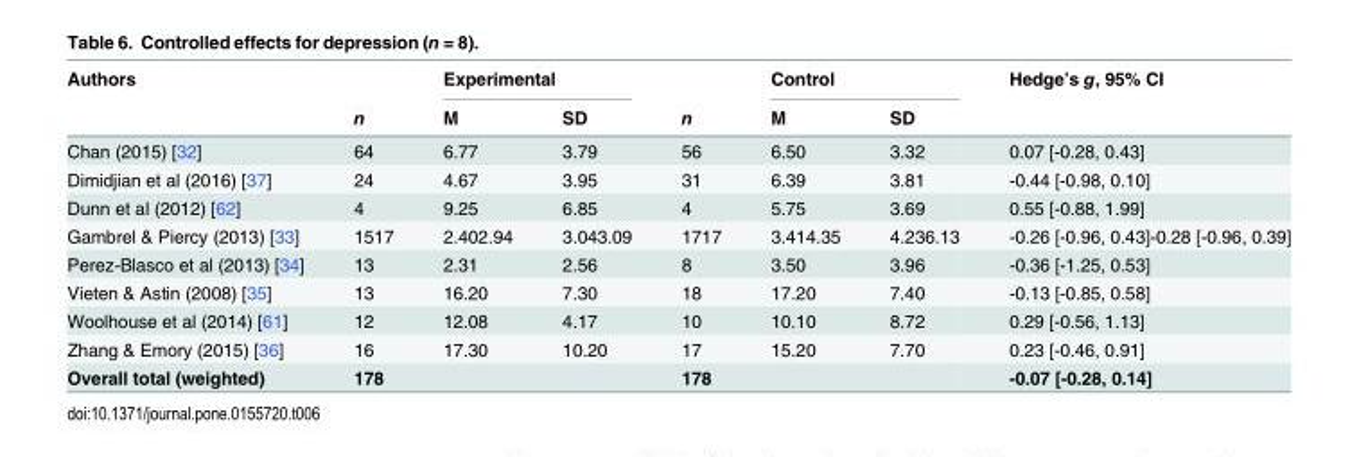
<table><thead><tr><td rowspan="2">Authors</td><td rowspan="2">n</td><td colspan="2">Experimental</td><td rowspan="2">n</td><td colspan="2">Control</td><td rowspan="2">Hedge’s g, 95% CI</td></tr><tr><td>M</td><td>SD</td><td>M</td><td>SD</td></tr></thead><tbody><tr><td>Chan (2015) [32]</td><td>64</td><td>6.77</td><td>3.79</td><td>56</td><td>6.50</td><td>3.32</td><td>0.07 [-0.28, 0.43]</td></tr><tr><td>Dimidjian et al (2016) [37]</td><td>24</td><td>4.67</td><td>3.95</td><td>31</td><td>6.39</td><td>3.81</td><td>-0.44 [-0.98, 0.10]</td></tr><tr><td>Dunn et al (2012) [62]</td><td>4</td><td>9.25</td><td>6.85</td><td>4</td><td>5.75</td><td>3.69</td><td>0.55 [-0.88, 1.99]</td></tr><tr><td>Gambrel &amp; Piercy (2013) [33]</td><td>1517</td><td>2.402.94</td><td>3.043.09</td><td>1717</td><td>3.414.35</td><td>4.236.13</td><td>-0.26 [-0.96, 0.43]-0.28 [-0.96, 0.39]</td></tr><tr><td>Perez-Blasco et al (2013) [34]</td><td>13</td><td>2.31</td><td>2.56</td><td>8</td><td>3.50</td><td>3.96</td><td>-0.36 [-1.25, 0.53]</td></tr><tr><td>Vieten &amp; Astin (2008) [35]</td><td>13</td><td>16.20</td><td>7.30</td><td>18</td><td>17.20</td><td>7.40</td><td>-0.13 [-0.85, 0.58]</td></tr><tr><td>Woolhouse et al (2014) [61]</td><td>12</td><td>12.08</td><td>4.17</td><td>10</td><td>10.10</td><td>8.72</td><td>0.29 [-0.56, 1.13]</td></tr><tr><td>Zhang &amp; Emory (2015) [36]</td><td>16</td><td>17.30</td><td>10.20</td><td>17</td><td>15.20</td><td>7.70</td><td>0.23 [-0.46, 0.91]</td></tr><tr><td>Overall total (weighted)</td><td>178</td><td></td><td></td><td>178</td><td></td><td></td><td>-0.07 [-0.28, 0.14]</td></tr></tbody></table>